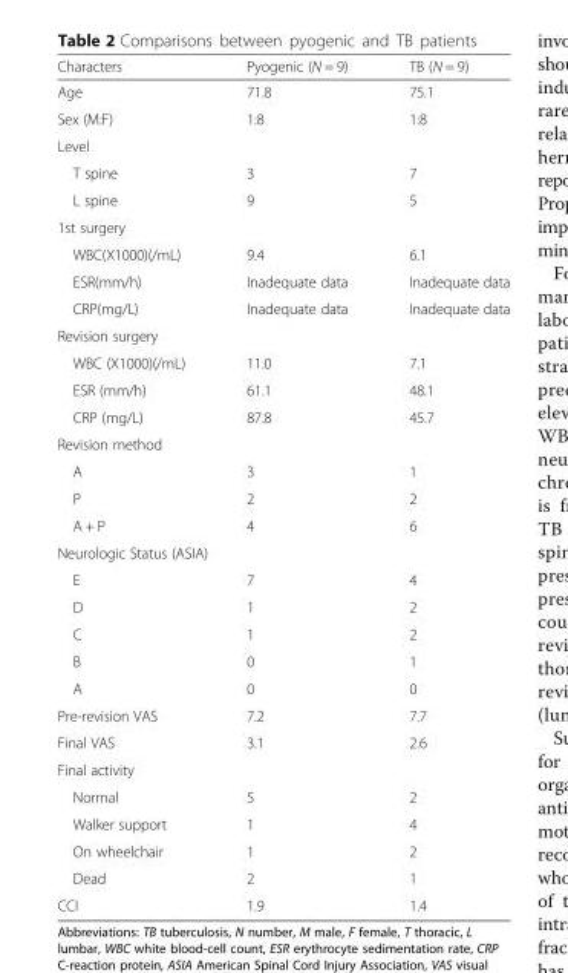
<table><thead><tr><td>Characters</td><td>Pyogenic (N = 9)</td><td>TB (N = 9)</td></tr></thead><tbody><tr><td>Age</td><td>71.8</td><td>75.1</td></tr><tr><td>Sex (M:F)</td><td>1:8</td><td>1:8</td></tr><tr><td colspan="3">Level</td></tr><tr><td>T spine</td><td>3</td><td>7</td></tr><tr><td>L spine</td><td>9</td><td>5</td></tr><tr><td colspan="3">1st surgery</td></tr><tr><td>WBC(X1000)(/mL)</td><td>9.4</td><td>6.1</td></tr><tr><td>ESR(mm/h)</td><td>Inadequate data</td><td>Inadequate data</td></tr><tr><td>CRP(mg/L)</td><td>Inadequate data</td><td>Inadequate data</td></tr><tr><td colspan="3">Revision surgery</td></tr><tr><td>WBC (X1000)(/mL)</td><td>11.0</td><td>7.1</td></tr><tr><td>ESR (mm/h)</td><td>61.1</td><td>48.1</td></tr><tr><td>CRP (mg/L)</td><td>87.8</td><td>45.7</td></tr><tr><td colspan="3">Revision method</td></tr><tr><td>A</td><td>3</td><td>1</td></tr><tr><td>P</td><td>2</td><td>2</td></tr><tr><td>A + P</td><td>4</td><td>6</td></tr><tr><td colspan="3">Neurologic Status (ASIA)</td></tr><tr><td>E</td><td>7</td><td>4</td></tr><tr><td>D</td><td>1</td><td>2</td></tr><tr><td>C</td><td>1</td><td>2</td></tr><tr><td>B</td><td>0</td><td>1</td></tr><tr><td>A</td><td>0</td><td>0</td></tr><tr><td>Pre-revision VAS</td><td>7.2</td><td>7.7</td></tr><tr><td>Final VAS</td><td>3.1</td><td>2.6</td></tr><tr><td colspan="3">Final activity</td></tr><tr><td>Normal</td><td>5</td><td>2</td></tr><tr><td>Walker support</td><td>1</td><td>4</td></tr><tr><td>On wheelchair</td><td>1</td><td>2</td></tr><tr><td>Dead</td><td>2</td><td>1</td></tr><tr><td>CCI</td><td>1.9</td><td>1.4</td></tr></tbody></table>